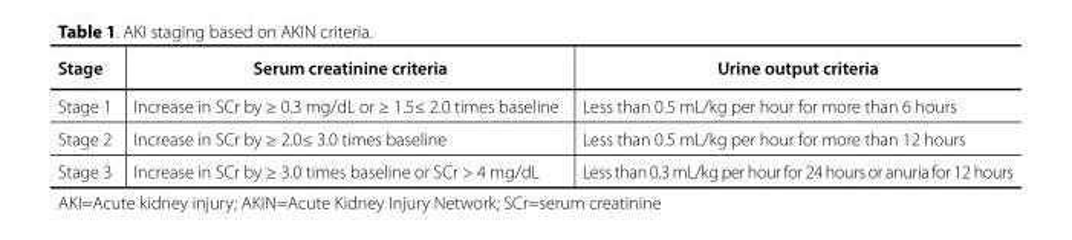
<table><thead><tr><td>Stage</td><td>Serum creatinine criteria</td><td>Urine output criteria</td></tr></thead><tbody><tr><td>Stage 1</td><td>Increase in SCr by ≥ 0.3 mg/dL or ≥ 1.5≤ 2.0 times baseline</td><td>Less than 0.5 mL/kg per hour for more than 6 hours</td></tr><tr><td>Stage 2</td><td>Increase in SCr by ≥ 2.0≤ 3.0 times baseline</td><td>Less than 0.5 mL/kg per hour for more than 12 hours</td></tr><tr><td>Stage 3</td><td>Increase in SCr by ≥ 3.0 times baseline or SCr &gt; 4 mg/dL</td><td>Less than 0.3 mL/kg per hour for 24 hours or anuria for 12 hours</td></tr></tbody></table>